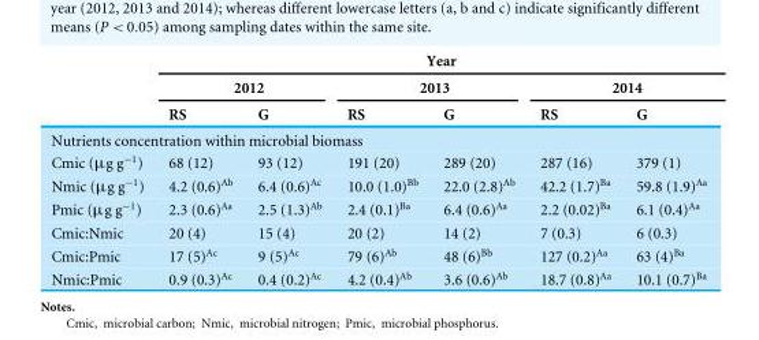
<table><thead><tr><td rowspan="3"></td><td colspan="6">Year</td></tr><tr><td colspan="2">2012</td><td colspan="2">2013</td><td colspan="2">2014</td></tr><tr><td>RS</td><td>G</td><td>RS</td><td>G</td><td>RS</td><td>G</td></tr></thead><tbody><tr><td colspan="7">Nutrients concentration within microbial biomass</td></tr><tr><td>Cmic (µg g<sup>−1</sup>)</td><td>68 (12)</td><td>93 (12)</td><td>191 (20)</td><td>289 (20)</td><td>287 (16)</td><td>379 (1)</td></tr><tr><td>Nmic (µg g<sup>−1</sup>)</td><td>4.2 (0.6)<sup>Ab</sup></td><td>6.4 (0.6)<sup>Ac</sup></td><td>10.0 (1.0)<sup>Bb</sup></td><td>22.0 (2.8)<sup>Ab</sup></td><td>42.2 (1.7)<sup>Ba</sup></td><td>59.8 (1.9)<sup>Aa</sup></td></tr><tr><td>Pmic (µg g<sup>−1</sup>)</td><td>2.3 (0.6)<sup>Aa</sup></td><td>2.5 (1.3)<sup>Ab</sup></td><td>2.4 (0.1)<sup>Ba</sup></td><td>6.4 (0.6)<sup>Aa</sup></td><td>2.2 (0.02)<sup>Ba</sup></td><td>6.1 (0.4)<sup>Aa</sup></td></tr><tr><td>Cmic:Nmic</td><td>20 (4)</td><td>15 (4)</td><td>20 (2)</td><td>14 (2)</td><td>7 (0.3)</td><td>6 (0.3)</td></tr><tr><td>Cmic:Pmic</td><td>17 (5)<sup>Ac</sup></td><td>9 (5)<sup>Ac</sup></td><td>79 (6)<sup>Ab</sup></td><td>48 (6)<sup>Bb</sup></td><td>127 (0.2)<sup>Aa</sup></td><td>63 (4)<sup>Ba</sup></td></tr><tr><td>Nmic:Pmic</td><td>0.9 (0.3)<sup>Ac</sup></td><td>0.4 (0.2)<sup>Ac</sup></td><td>4.2 (0.4)<sup>Ab</sup></td><td>3.6 (0.6)<sup>Ab</sup></td><td>18.7 (0.8)<sup>Aa</sup></td><td>10.1 (0.7)<sup>Ba</sup></td></tr></tbody></table>